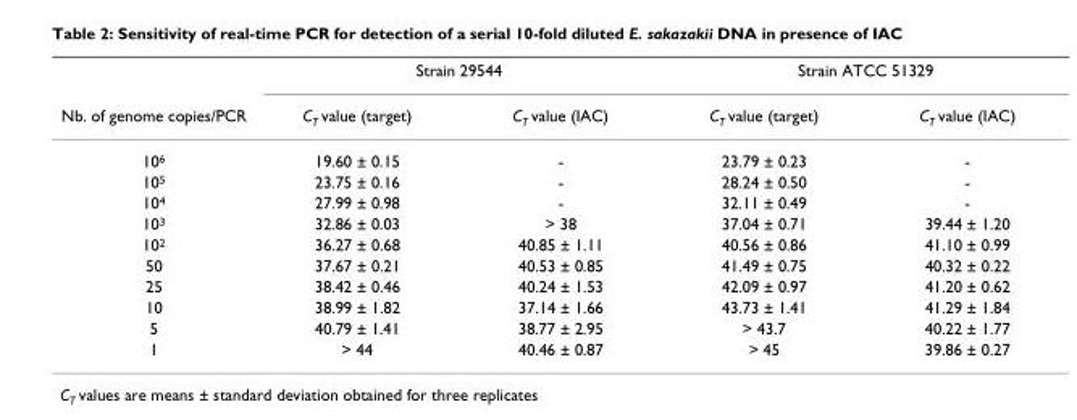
<table><thead><tr><td rowspan="2">Nb. of genome copies/PCR</td><td colspan="2">Strain 29544</td><td colspan="2">Strain ATCC 51329</td></tr><tr><td>CT value (target)</td><td>CT value (IAC)</td><td>CT value (target)</td><td>CT value (IAC)</td></tr></thead><tbody><tr><td>106</td><td>19.60 ± 0.15</td><td>-</td><td>23.79 ± 0.23</td><td>-</td></tr><tr><td>105</td><td>23.75 ± 0.16</td><td>-</td><td>28.24 ± 0.50</td><td>-</td></tr><tr><td>104</td><td>27.99 ± 0.98</td><td>-</td><td>32.11 ± 0.49</td><td>-</td></tr><tr><td>103</td><td>32.86 ± 0.03</td><td>&gt; 38</td><td>37.04 ± 0.71</td><td>39.44 ± 1.20</td></tr><tr><td>102</td><td>36.27 ± 0.68</td><td>40.85 ± 1.11</td><td>40.56 ± 0.86</td><td>41.10 ± 0.99</td></tr><tr><td>50</td><td>37.67 ± 0.21</td><td>40.53 ± 0.85</td><td>41.49 ± 0.75</td><td>40.32 ± 0.22</td></tr><tr><td>25</td><td>38.42 ± 0.46</td><td>40.24 ± 1.53</td><td>42.09 ± 0.97</td><td>41.20 ± 0.62</td></tr><tr><td>10</td><td>38.99 ± 1.82</td><td>37.14 ± 1.66</td><td>43.73 ± 1.41</td><td>41.29 ± 1.84</td></tr><tr><td>5</td><td>40.79 ± 1.41</td><td>38.77 ± 2.95</td><td>&gt; 43.7</td><td>40.22 ± 1.77</td></tr><tr><td>1</td><td>&gt; 44</td><td>40.46 ± 0.87</td><td>&gt; 45</td><td>39.86 ± 0.27</td></tr></tbody></table>